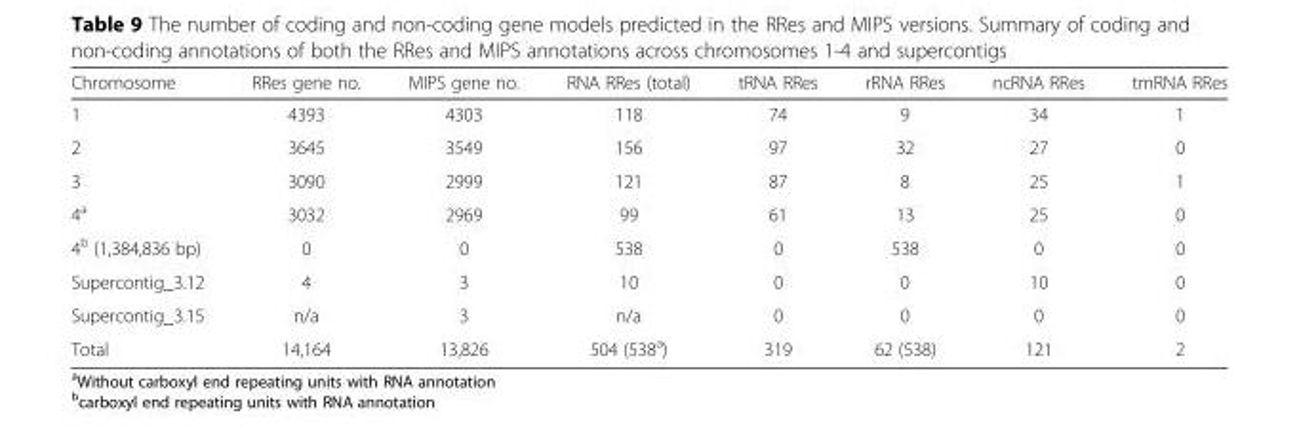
<table><thead><tr><td>Chromosome</td><td>RRes gene no.</td><td>MIPS gene no.</td><td>RNA RRes (total)</td><td>tRNA RRes</td><td>rRNA RRes</td><td>ncRNA RRes</td><td>tmRNA RRes</td></tr></thead><tbody><tr><td>1</td><td>4393</td><td>4303</td><td>118</td><td>74</td><td>9</td><td>34</td><td>1</td></tr><tr><td>2</td><td>3645</td><td>3549</td><td>156</td><td>97</td><td>32</td><td>27</td><td>0</td></tr><tr><td>3</td><td>3090</td><td>2999</td><td>121</td><td>87</td><td>8</td><td>25</td><td>1</td></tr><tr><td>4<sup>a</sup></td><td>3032</td><td>2969</td><td>99</td><td>61</td><td>13</td><td>25</td><td>0</td></tr><tr><td>4<sup>b</sup> (1,384,836 bp)</td><td>0</td><td>0</td><td>538</td><td>0</td><td>538</td><td>0</td><td>0</td></tr><tr><td>Supercontig_3.12</td><td>4</td><td>3</td><td>10</td><td>0</td><td>0</td><td>10</td><td>0</td></tr><tr><td>Supercontig_3.15</td><td>n/a</td><td>3</td><td>n/a</td><td>0</td><td>0</td><td>0</td><td>0</td></tr><tr><td>Total</td><td>14,164</td><td>13,826</td><td>504 (538<sup>a</sup>)</td><td>319</td><td>62 (538)</td><td>121</td><td>2</td></tr></tbody></table>